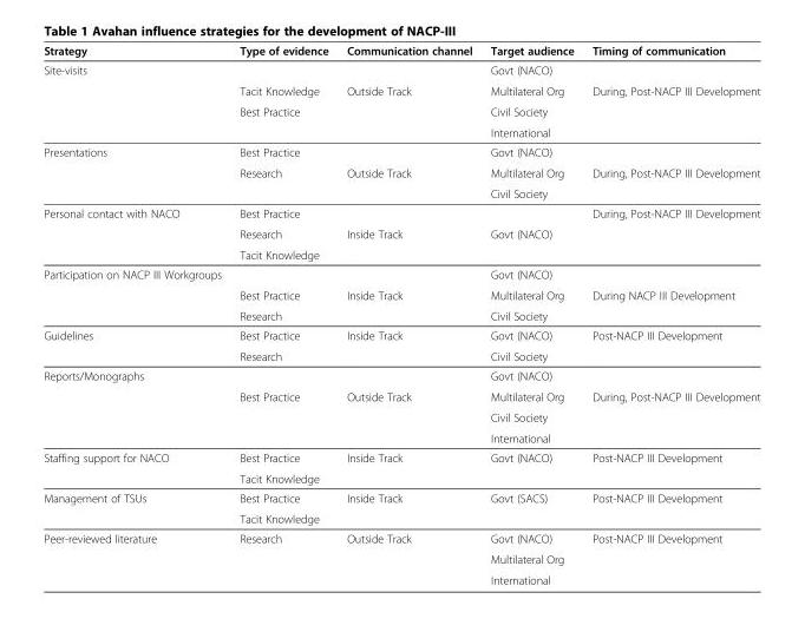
<table><thead><tr><td>Strategy</td><td>Type of evidence</td><td>Communication channel</td><td>Target audience</td><td>Timing of communication</td></tr></thead><tbody><tr><td rowspan="4">Site-visits</td><td></td><td></td><td>Govt (NACO)</td><td></td></tr><tr><td>Tacit Knowledge</td><td>Outside Track</td><td>Multilateral Org</td><td>During, Post-NACP III Development</td></tr><tr><td>Best Practice</td><td></td><td>Civil Society</td><td></td></tr><tr><td></td><td></td><td>International</td><td></td></tr><tr><td rowspan="3">Presentations</td><td>Best Practice</td><td></td><td>Govt (NACO)</td><td></td></tr><tr><td>Research</td><td>Outside Track</td><td>Multilateral Org</td><td>During, Post-NACP III Development</td></tr><tr><td></td><td></td><td>Civil Society</td><td></td></tr><tr><td rowspan="3">Personal contact with NACO</td><td>Best Practice</td><td></td><td></td><td>During, Post-NACP III Development</td></tr><tr><td>Research</td><td>Inside Track</td><td>Govt (NACO)</td><td></td></tr><tr><td>Tacit Knowledge</td><td></td><td></td><td></td></tr><tr><td rowspan="3">Participation on NACP III Workgroups</td><td></td><td></td><td>Govt (NACO)</td><td></td></tr><tr><td>Best Practice</td><td>Inside Track</td><td>Multilateral Org</td><td>During NACP III Development</td></tr><tr><td>Research</td><td></td><td>Civil Society</td><td></td></tr><tr><td rowspan="2">Guidelines</td><td>Best Practice</td><td>Inside Track</td><td>Govt (NACO)</td><td>Post-NACP III Development</td></tr><tr><td>Research</td><td></td><td>Civil Society</td><td></td></tr><tr><td rowspan="4">Reports/Monographs</td><td></td><td></td><td>Govt (NACO)</td><td></td></tr><tr><td>Best Practice</td><td>Outside Track</td><td>Multilateral Org</td><td>During, Post-NACP III Development</td></tr><tr><td></td><td></td><td>Civil Society</td><td></td></tr><tr><td></td><td></td><td>International</td><td></td></tr><tr><td rowspan="2">Staffing support for NACO</td><td>Best Practice</td><td>Inside Track</td><td>Govt (NACO)</td><td>Post-NACP III Development</td></tr><tr><td>Tacit Knowledge</td><td></td><td></td><td></td></tr><tr><td rowspan="2">Management of TSUs</td><td>Best Practice</td><td>Inside Track</td><td>Govt (SACS)</td><td>Post-NACP III Development</td></tr><tr><td>Tacit Knowledge</td><td></td><td></td><td></td></tr><tr><td rowspan="3">Peer-reviewed literature</td><td>Research</td><td>Outside Track</td><td>Govt (NACO)</td><td>Post-NACP III Development</td></tr><tr><td></td><td></td><td>Multilateral Org</td><td></td></tr><tr><td></td><td></td><td>International</td><td></td></tr></tbody></table>